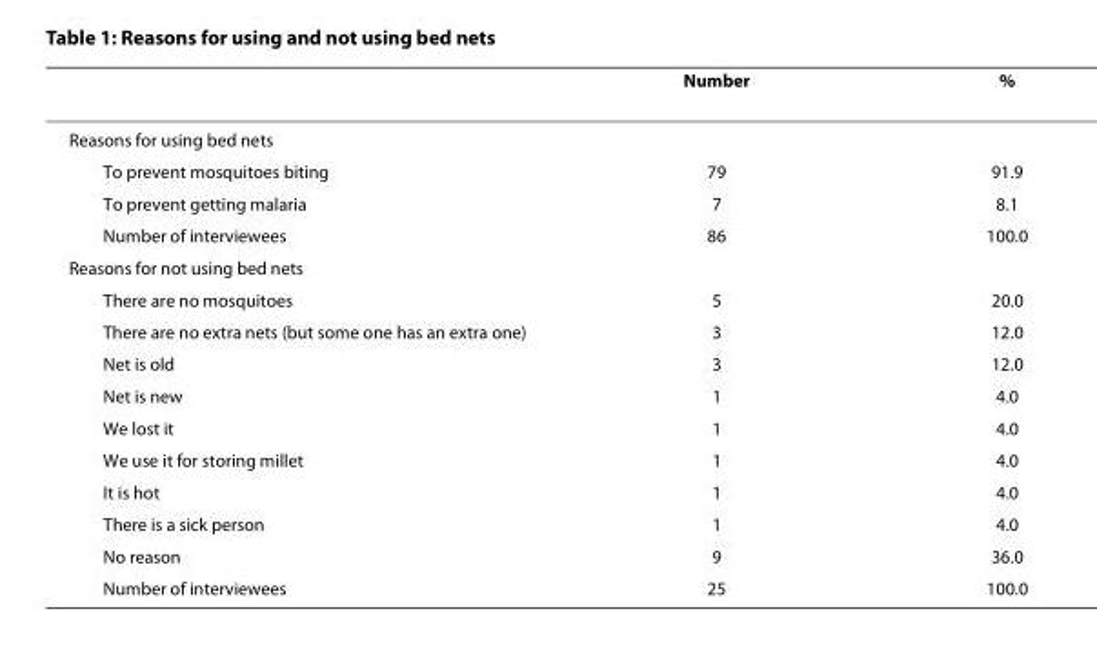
<table><thead><tr><td></td><td>Number</td><td>%</td></tr></thead><tbody><tr><td colspan="3">Reasons for using bed nets</td></tr><tr><td>To prevent mosquitoes biting</td><td>79</td><td>91.9</td></tr><tr><td>To prevent getting malaria</td><td>7</td><td>8.1</td></tr><tr><td>Number of interviewees</td><td>86</td><td>100.0</td></tr><tr><td colspan="3">Reasons for not using bed nets</td></tr><tr><td>There are no mosquitoes</td><td>5</td><td>20.0</td></tr><tr><td>There are no extra nets (but some one has an extra one)</td><td>3</td><td>12.0</td></tr><tr><td>Net is old</td><td>3</td><td>12.0</td></tr><tr><td>Net is new</td><td>1</td><td>4.0</td></tr><tr><td>We lost it</td><td>1</td><td>4.0</td></tr><tr><td>We use it for storing millet</td><td>1</td><td>4.0</td></tr><tr><td>It is hot</td><td>1</td><td>4.0</td></tr><tr><td>There is a sick person</td><td>1</td><td>4.0</td></tr><tr><td>No reason</td><td>9</td><td>36.0</td></tr><tr><td>Number of interviewees</td><td>25</td><td>100.0</td></tr></tbody></table>